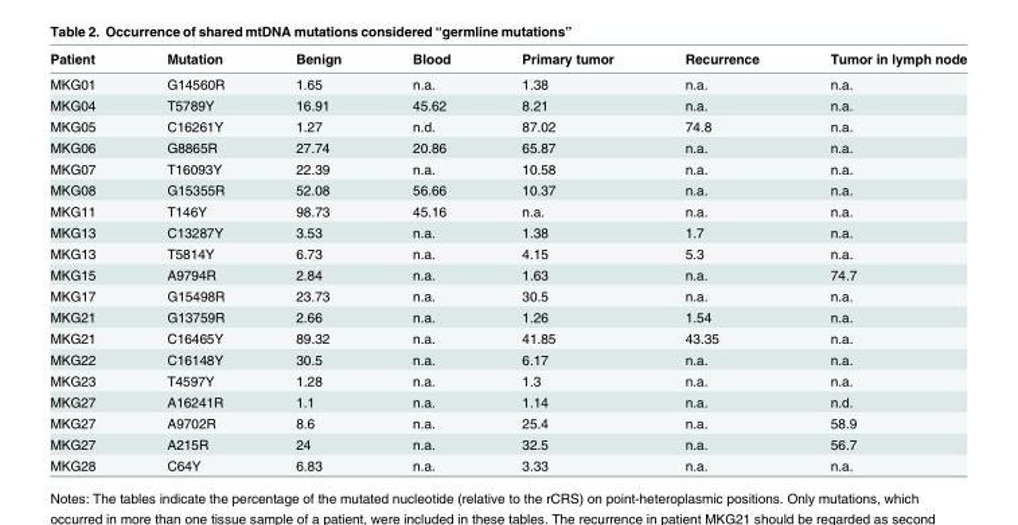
<table><thead><tr><td>Patient</td><td>Mutation</td><td>Benign</td><td>Blood</td><td>Primary tumor</td><td>Recurrence</td><td>Tumor in lymph node</td></tr></thead><tbody><tr><td>MKG01</td><td>G14560R</td><td>1.65</td><td>n.a.</td><td>1.38</td><td>n.a.</td><td>n.a.</td></tr><tr><td>MKG04</td><td>T5789Y</td><td>16.91</td><td>45.62</td><td>8.21</td><td>n.a.</td><td>n.a.</td></tr><tr><td>MKG05</td><td>C16261Y</td><td>1.27</td><td>n.d.</td><td>87.02</td><td>74.8</td><td>n.a.</td></tr><tr><td>MKG06</td><td>G8865R</td><td>27.74</td><td>20.86</td><td>65.87</td><td>n.a.</td><td>n.a.</td></tr><tr><td>MKG07</td><td>T16093Y</td><td>22.39</td><td>n.a.</td><td>10.58</td><td>n.a.</td><td>n.a.</td></tr><tr><td>MKG08</td><td>G15355R</td><td>52.08</td><td>56.66</td><td>10.37</td><td>n.a.</td><td>n.a.</td></tr><tr><td>MKG11</td><td>T146Y</td><td>98.73</td><td>45.16</td><td>n.a.</td><td>n.a.</td><td>n.a.</td></tr><tr><td>MKG13</td><td>C13287Y</td><td>3.53</td><td>n.a.</td><td>1.38</td><td>1.7</td><td>n.a.</td></tr><tr><td>MKG13</td><td>T5814Y</td><td>6.73</td><td>n.a.</td><td>4.15</td><td>5.3</td><td>n.a.</td></tr><tr><td>MKG15</td><td>A9794R</td><td>2.84</td><td>n.a.</td><td>1.63</td><td>n.a.</td><td>74.7</td></tr><tr><td>MKG17</td><td>G15498R</td><td>23.73</td><td>n.a.</td><td>30.5</td><td>n.a.</td><td>n.a.</td></tr><tr><td>MKG21</td><td>G13759R</td><td>2.66</td><td>n.a.</td><td>1.26</td><td>1.54</td><td>n.a.</td></tr><tr><td>MKG21</td><td>C16465Y</td><td>89.32</td><td>n.a.</td><td>41.85</td><td>43.35</td><td>n.a.</td></tr><tr><td>MKG22</td><td>C16148Y</td><td>30.5</td><td>n.a.</td><td>6.17</td><td>n.a.</td><td>n.a.</td></tr><tr><td>MKG23</td><td>T4597Y</td><td>1.28</td><td>n.a.</td><td>1.3</td><td>n.a.</td><td>n.a.</td></tr><tr><td>MKG27</td><td>A16241R</td><td>1.1</td><td>n.a.</td><td>1.14</td><td>n.a.</td><td>n.d.</td></tr><tr><td>MKG27</td><td>A9702R</td><td>8.6</td><td>n.a.</td><td>25.4</td><td>n.a.</td><td>58.9</td></tr><tr><td>MKG27</td><td>A215R</td><td>24</td><td>n.a.</td><td>32.5</td><td>n.a.</td><td>56.7</td></tr><tr><td>MKG28</td><td>C64Y</td><td>6.83</td><td>n.a.</td><td>3.33</td><td>n.a.</td><td>n.a.</td></tr></tbody></table>